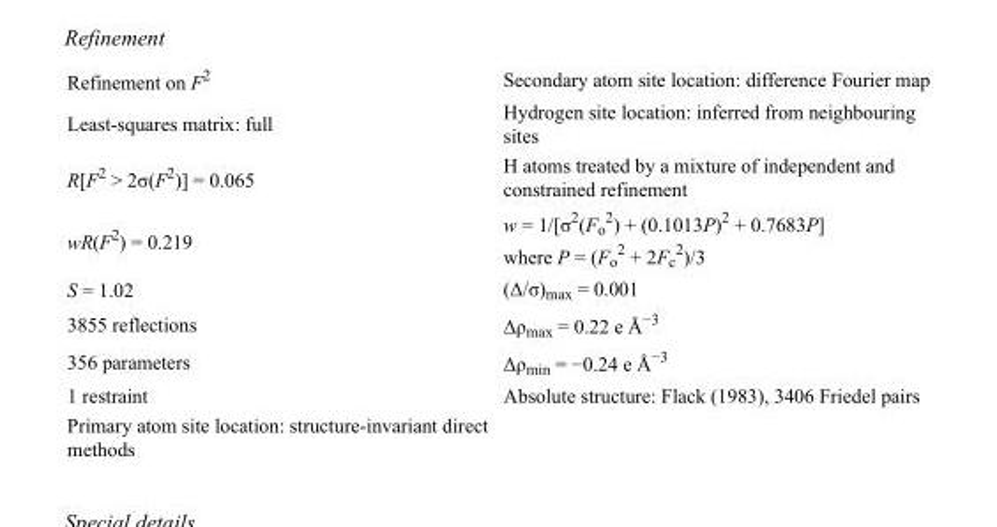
<table><tbody><tr><td>Refinement on F<sup>2</sup></td><td>Secondary atom site location: difference Fourier map</td></tr><tr><td>Least-squares matrix: full</td><td>Hydrogen site location: inferred from neighbouring sites</td></tr><tr><td>R[F<sup>2</sup> &gt; 2σ(F<sup>2</sup>)] = 0.065</td><td>H atoms treated by a mixture of independent and constrained refinement</td></tr><tr><td>wR(F<sup>2</sup>) = 0.219</td><td>w = 1/[σ<sup>2</sup>(F<sub>o</sub> <sup>2</sup>) + (0.1013P)<sup>2</sup> + 0.7683P] where P = (F<sub>o</sub> <sup>2</sup> + 2F<sub>c</sub> <sup>2</sup>)/3</td></tr><tr><td>S = 1.02</td><td>(Δ/σ)<sub>max</sub> = 0.001</td></tr><tr><td>3855 reflections</td><td>Δρ<sub>max</sub> = 0.22 e Å<sup>−3</sup></td></tr><tr><td>356 parameters</td><td>Δρ<sub>min</sub> = −0.24 e Å<sup>−3</sup></td></tr><tr><td>1 restraint</td><td>Absolute structure: Flack (1983), 3406 Friedel pairs</td></tr><tr><td>Primary atom site location: structure-invariant direct methods</td><td></td></tr></tbody></table>